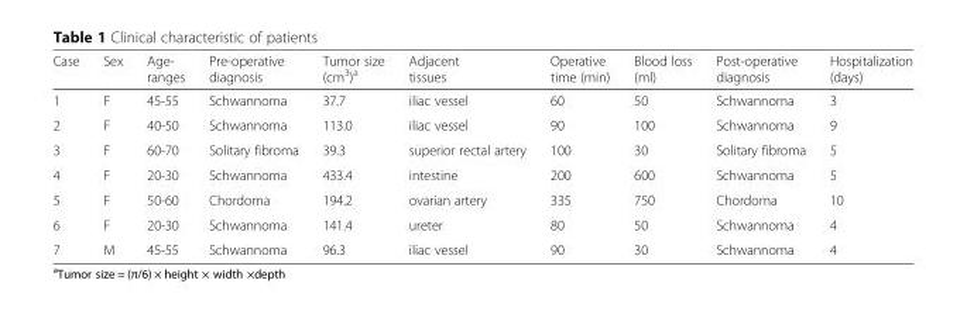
<table><thead><tr><td>Case</td><td>Sex</td><td>Age- ranges</td><td>Pre-operative diagnosis</td><td>Tumor size (cm<sup>3</sup>)<sup>a</sup></td><td>Adjacent tissues</td><td>Operative time (min)</td><td>Blood loss (ml)</td><td>Post-operative diagnosis</td><td>Hospitalization (days)</td></tr></thead><tbody><tr><td>1</td><td>F</td><td>45-55</td><td>Schwannoma</td><td>37.7</td><td>iliac vessel</td><td>60</td><td>50</td><td>Schwannoma</td><td>3</td></tr><tr><td>2</td><td>F</td><td>40-50</td><td>Schwannoma</td><td>113.0</td><td>iliac vessel</td><td>90</td><td>100</td><td>Schwannoma</td><td>9</td></tr><tr><td>3</td><td>F</td><td>60-70</td><td>Solitary fibroma</td><td>39.3</td><td>superior rectal artery</td><td>100</td><td>30</td><td>Solitary fibroma</td><td>5</td></tr><tr><td>4</td><td>F</td><td>20-30</td><td>Schwannoma</td><td>433.4</td><td>intestine</td><td>200</td><td>600</td><td>Schwannoma</td><td>5</td></tr><tr><td>5</td><td>F</td><td>50-60</td><td>Chordoma</td><td>194.2</td><td>ovarian artery</td><td>335</td><td>750</td><td>Chordoma</td><td>10</td></tr><tr><td>6</td><td>F</td><td>20-30</td><td>Schwannoma</td><td>141.4</td><td>ureter</td><td>80</td><td>50</td><td>Schwannoma</td><td>4</td></tr><tr><td>7</td><td>M</td><td>45-55</td><td>Schwannoma</td><td>96.3</td><td>iliac vessel</td><td>90</td><td>30</td><td>Schwannoma</td><td>4</td></tr></tbody></table>